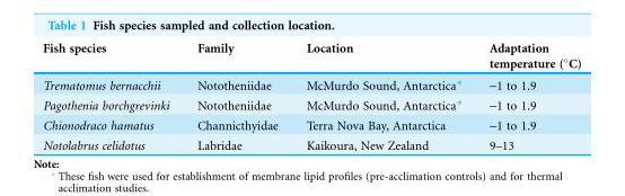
<table><thead><tr><td>Fish species</td><td>Family</td><td>Location</td><td>Adaptation temperature (°C)</td></tr></thead><tbody><tr><td>Trematomus bernacchii</td><td>Nototheniidae</td><td>McMurdo Sound, Antarctica*</td><td>-1 to 1.9</td></tr><tr><td>Pagothenia borchgrevinki</td><td>Nototheniidae</td><td>McMurdo Sound, Antarctica*</td><td>-1 to 1.9</td></tr><tr><td>Chionodraco hamatus</td><td>Channicthyidae</td><td>Terra Nova Bay, Antarctica</td><td>-1 to 1.9</td></tr><tr><td>Notolabrus celidotus</td><td>Labridae</td><td>Kaikoura, New Zealand</td><td>9–13</td></tr></tbody></table>